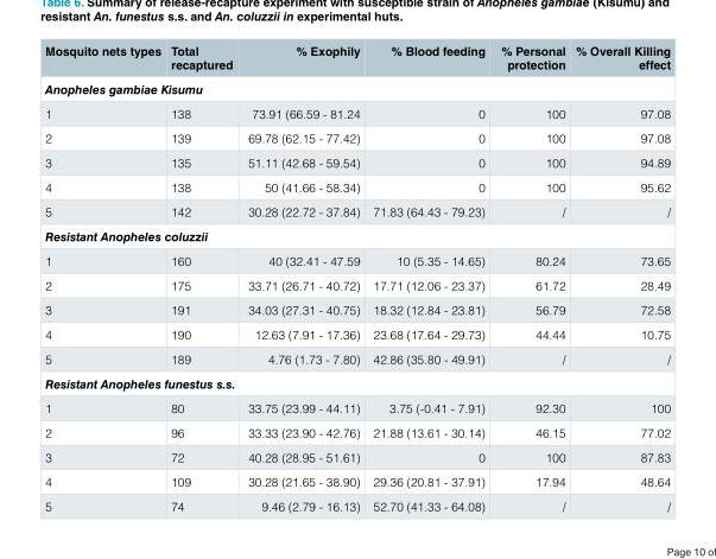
<table><thead><tr><td>Mosquito nets types</td><td>Total recaptured</td><td>% Exophily</td><td>% Blood feeding</td><td>% Personal protection</td><td>% Overall Killing effect</td></tr></thead><tbody><tr><td colspan="6">Anopheles gambiae Kisumu</td></tr><tr><td>1</td><td>138</td><td>73.91 (66.59 - 81.24</td><td>0</td><td>100</td><td>97.08</td></tr><tr><td>2</td><td>139</td><td>69.78 (62.15 - 77.42)</td><td>0</td><td>100</td><td>97.08</td></tr><tr><td>3</td><td>135</td><td>51.11 (42.68 - 59.54)</td><td>0</td><td>100</td><td>94.89</td></tr><tr><td>4</td><td>138</td><td>50 (41.66 - 58.34)</td><td>0</td><td>100</td><td>95.62</td></tr><tr><td>5</td><td>142</td><td>30.28 (22.72 - 37.84)</td><td>71.83 (64.43 - 79.23)</td><td>/</td><td>/</td></tr><tr><td colspan="6">Resistant Anopheles coluzzii</td></tr><tr><td>1</td><td>160</td><td>40 (32.41 - 47.59</td><td>10 (5.35 - 14.65)</td><td>80.24</td><td>73.65</td></tr><tr><td>2</td><td>175</td><td>33.71 (26.71 - 40.72)</td><td>17.71 (12.06 - 23.37)</td><td>61.72</td><td>28.49</td></tr><tr><td>3</td><td>191</td><td>34.03 (27.31 - 40.75)</td><td>18.32 (12.84 - 23.81)</td><td>56.79</td><td>72.58</td></tr><tr><td>4</td><td>190</td><td>12.63 (7.91 - 17.36)</td><td>23.68 (17.64 - 29.73)</td><td>44.44</td><td>10.75</td></tr><tr><td>5</td><td>189</td><td>4.76 (1.73 - 7.80)</td><td>42.86 (35.80 - 49.91)</td><td>/</td><td>/</td></tr><tr><td colspan="6">Resistant Anopheles funestus s.s.</td></tr><tr><td>1</td><td>80</td><td>33.75 (23.99 - 44.11)</td><td>3.75 (-0.41 - 7.91)</td><td>92.30</td><td>100</td></tr><tr><td>2</td><td>96</td><td>33.33 (23.90 - 42.76)</td><td>21.88 (13.61 - 30.14)</td><td>46.15</td><td>77.02</td></tr><tr><td>3</td><td>72</td><td>40.28 (28.95 - 51.61)</td><td>0</td><td>100</td><td>87.83</td></tr><tr><td>4</td><td>109</td><td>30.28 (21.65 - 38.90)</td><td>29.36 (20.81 - 37.91)</td><td>17.94</td><td>48.64</td></tr><tr><td>5</td><td>74</td><td>9.46 (2.79 - 16.13)</td><td>52.70 (41.33 - 64.08)</td><td>/</td><td>/</td></tr></tbody></table>